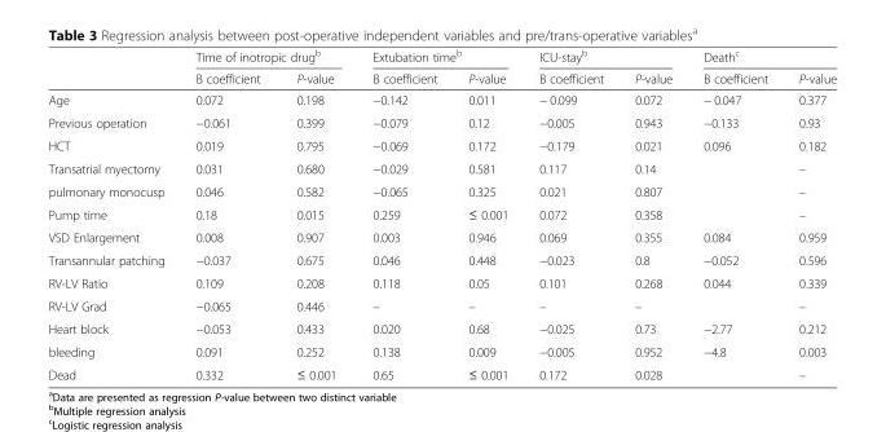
<table><thead><tr><td rowspan="2"></td><td colspan="2">Time of inotropic drug<sup>b</sup></td><td colspan="2">Extubation time<sup>b</sup></td><td colspan="2">ICU-stay<sup>b</sup></td><td colspan="2">Death<sup>c</sup></td></tr><tr><td>Β coefficient</td><td>P-value</td><td>Β coefficient</td><td>P-value</td><td>Β coefficient</td><td>P-value</td><td>Β coefficient</td><td>P-value</td></tr></thead><tbody><tr><td>Age</td><td>0.072</td><td>0.198</td><td>−0.142</td><td>0.011</td><td>− 0.099</td><td>0.072</td><td>− 0.047</td><td>0.377</td></tr><tr><td>Previous operation</td><td>−0.061</td><td>0.399</td><td>−0.079</td><td>0.12</td><td>−0.005</td><td>0.943</td><td>−0.133</td><td>0.93</td></tr><tr><td>HCT</td><td>0.019</td><td>0.795</td><td>−0.069</td><td>0.172</td><td>−0.179</td><td>0.021</td><td>0.096</td><td>0.182</td></tr><tr><td>Transatrial myectomy</td><td>0.031</td><td>0.680</td><td>−0.029</td><td>0.581</td><td>0.117</td><td>0.14</td><td></td><td>–</td></tr><tr><td>pulmonary monocusp</td><td>0.046</td><td>0.582</td><td>−0.065</td><td>0.325</td><td>0.021</td><td>0.807</td><td></td><td>–</td></tr><tr><td>Pump time</td><td>0.18</td><td>0.015</td><td>0.259</td><td>≤ 0.001</td><td>0.072</td><td>0.358</td><td></td><td>–</td></tr><tr><td>VSD Enlargement</td><td>0.008</td><td>0.907</td><td>0.003</td><td>0.946</td><td>0.069</td><td>0.355</td><td>0.084</td><td>0.959</td></tr><tr><td>Transannular patching</td><td>−0.037</td><td>0.675</td><td>0.046</td><td>0.448</td><td>−0.023</td><td>0.8</td><td>−0.052</td><td>0.596</td></tr><tr><td>RV-LV Ratio</td><td>0.109</td><td>0.208</td><td>0.118</td><td>0.05</td><td>0.101</td><td>0.268</td><td>0.044</td><td>0.339</td></tr><tr><td>RV-LV Grad</td><td>−0.065</td><td>0.446</td><td>–</td><td>–</td><td>–</td><td>–</td><td></td><td>–</td></tr><tr><td>Heart block</td><td>−0.053</td><td>0.433</td><td>0.020</td><td>0.68</td><td>−0.025</td><td>0.73</td><td>−2.77</td><td>0.212</td></tr><tr><td>bleeding</td><td>0.091</td><td>0.252</td><td>0.138</td><td>0.009</td><td>−0.005</td><td>0.952</td><td>−4.8</td><td>0.003</td></tr><tr><td>Dead</td><td>0.332</td><td>≤ 0.001</td><td>0.65</td><td>≤ 0.001</td><td>0.172</td><td>0.028</td><td></td><td>–</td></tr></tbody></table>